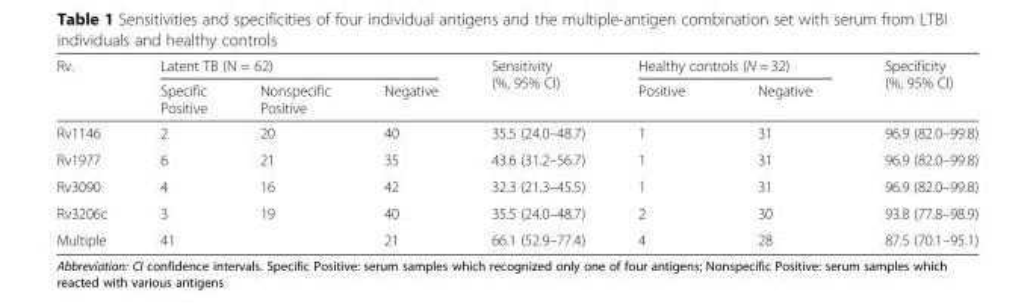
<table><thead><tr><td rowspan="2">Rv.</td><td colspan="3">Latent TB (N = 62)</td><td rowspan="2">Sensitivity (%, 95% CI)</td><td colspan="2">Healthy controls (N = 32)</td><td rowspan="2">Specificity (%, 95% CI)</td></tr><tr><td>Specific Positive</td><td>Nonspecific Positive</td><td>Negative</td><td>Positive</td><td>Negative</td></tr></thead><tbody><tr><td>Rv1146</td><td>2</td><td>20</td><td>40</td><td>35.5 (24.0–48.7)</td><td>1</td><td>31</td><td>96.9 (82.0–99.8)</td></tr><tr><td>Rv1977</td><td>6</td><td>21</td><td>35</td><td>43.6 (31.2–56.7)</td><td>1</td><td>31</td><td>96.9 (82.0–99.8)</td></tr><tr><td>Rv3090</td><td>4</td><td>16</td><td>42</td><td>32.3 (21.3–45.5)</td><td>1</td><td>31</td><td>96.9 (82.0–99.8)</td></tr><tr><td>Rv3206c</td><td>3</td><td>19</td><td>40</td><td>35.5 (24.0–48.7)</td><td>2</td><td>30</td><td>93.8 (77.8–98.9)</td></tr><tr><td>Multiple</td><td>41</td><td></td><td>21</td><td>66.1 (52.9–77.4)</td><td>4</td><td>28</td><td>87.5 (70.1–95.1)</td></tr></tbody></table>